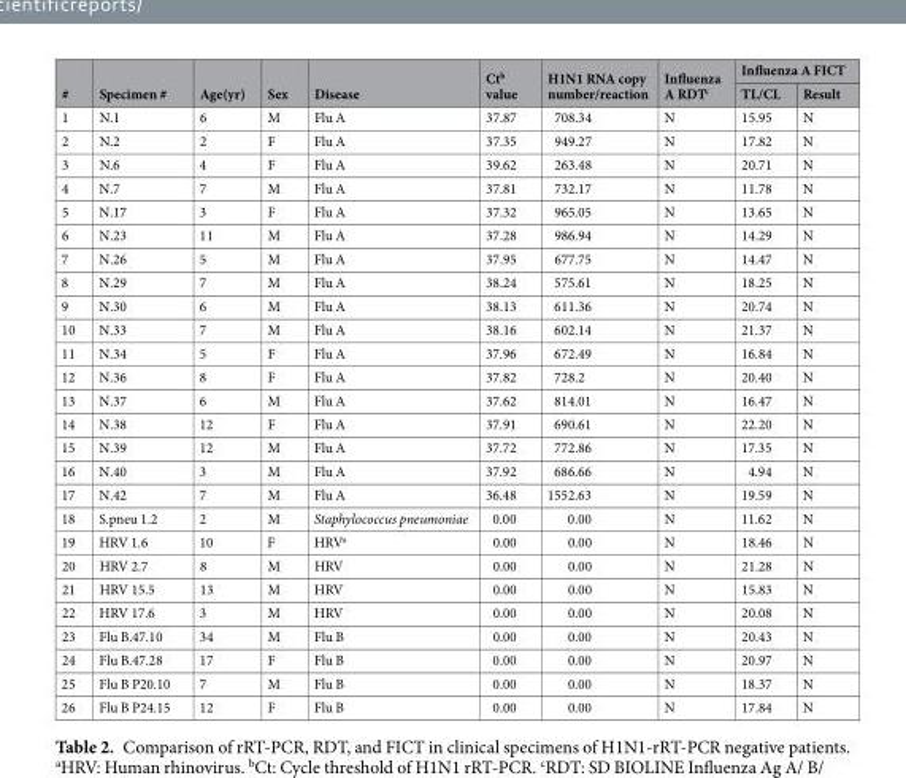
<table><thead><tr><td rowspan="2">#</td><td rowspan="2">Specimen #</td><td rowspan="2">Age(yr)</td><td rowspan="2">Sex</td><td rowspan="2">Disease</td><td rowspan="2">Ct<sup>b</sup> value</td><td rowspan="2">H1N1 RNA copy number/reaction</td><td rowspan="2">Influenza A RDT<sup>c</sup></td><td colspan="2">Influenza A FICT</td></tr><tr><td>TL/CL</td><td>Result</td></tr></thead><tbody><tr><td>1</td><td>N.1</td><td>6</td><td>M</td><td>Flu A</td><td>37.87</td><td>708.34</td><td>N</td><td>15.95</td><td>N</td></tr><tr><td>2</td><td>N.2</td><td>2</td><td>F</td><td>Flu A</td><td>37.35</td><td>949.27</td><td>N</td><td>17.82</td><td>N</td></tr><tr><td>3</td><td>N.6</td><td>4</td><td>F</td><td>Flu A</td><td>39.62</td><td>263.48</td><td>N</td><td>20.71</td><td>N</td></tr><tr><td>4</td><td>N.7</td><td>7</td><td>M</td><td>Flu A</td><td>37.81</td><td>732.17</td><td>N</td><td>11.78</td><td>N</td></tr><tr><td>5</td><td>N.17</td><td>3</td><td>F</td><td>Flu A</td><td>37.32</td><td>965.05</td><td>N</td><td>13.65</td><td>N</td></tr><tr><td>6</td><td>N.23</td><td>11</td><td>M</td><td>Flu A</td><td>37.28</td><td>986.94</td><td>N</td><td>14.29</td><td>N</td></tr><tr><td>7</td><td>N.26</td><td>5</td><td>M</td><td>Flu A</td><td>37.95</td><td>677.75</td><td>N</td><td>14.47</td><td>N</td></tr><tr><td>8</td><td>N.29</td><td>7</td><td>M</td><td>Flu A</td><td>38.24</td><td>575.61</td><td>N</td><td>18.25</td><td>N</td></tr><tr><td>9</td><td>N.30</td><td>6</td><td>M</td><td>Flu A</td><td>38.13</td><td>611.36</td><td>N</td><td>20.74</td><td>N</td></tr><tr><td>10</td><td>N.33</td><td>7</td><td>M</td><td>Flu A</td><td>38.16</td><td>602.14</td><td>N</td><td>21.37</td><td>N</td></tr><tr><td>11</td><td>N.34</td><td>5</td><td>F</td><td>Flu A</td><td>37.96</td><td>672.49</td><td>N</td><td>16.84</td><td>N</td></tr><tr><td>12</td><td>N.36</td><td>8</td><td>F</td><td>Flu A</td><td>37.82</td><td>728.2</td><td>N</td><td>20.40</td><td>N</td></tr><tr><td>13</td><td>N.37</td><td>6</td><td>M</td><td>Flu A</td><td>37.62</td><td>814.01</td><td>N</td><td>16.47</td><td>N</td></tr><tr><td>14</td><td>N.38</td><td>12</td><td>F</td><td>Flu A</td><td>37.91</td><td>690.61</td><td>N</td><td>22.20</td><td>N</td></tr><tr><td>15</td><td>N.39</td><td>12</td><td>M</td><td>Flu A</td><td>37.72</td><td>772.86</td><td>N</td><td>17.35</td><td>N</td></tr><tr><td>16</td><td>N.40</td><td>3</td><td>M</td><td>Flu A</td><td>37.92</td><td>686.66</td><td>N</td><td>4.94</td><td>N</td></tr><tr><td>17</td><td>N.42</td><td>7</td><td>M</td><td>Flu A</td><td>36.48</td><td>1552.63</td><td>N</td><td>19.59</td><td>N</td></tr><tr><td>18</td><td>S.pneu 1.2</td><td>2</td><td>M</td><td>Staphylococcus pneumoniae</td><td>0.00</td><td>0.00</td><td>N</td><td>11.62</td><td>N</td></tr><tr><td>19</td><td>HRV 1.6</td><td>10</td><td>F</td><td>HRV<sup>a</sup></td><td>0.00</td><td>0.00</td><td>N</td><td>18.46</td><td>N</td></tr><tr><td>20</td><td>HRV 2.7</td><td>8</td><td>M</td><td>HRV</td><td>0.00</td><td>0.00</td><td>N</td><td>21.28</td><td>N</td></tr><tr><td>21</td><td>HRV 15.5</td><td>13</td><td>M</td><td>HRV</td><td>0.00</td><td>0.00</td><td>N</td><td>15.83</td><td>N</td></tr><tr><td>22</td><td>HRV 17.6</td><td>3</td><td>M</td><td>HRV</td><td>0.00</td><td>0.00</td><td>N</td><td>20.08</td><td>N</td></tr><tr><td>23</td><td>Flu B.47.10</td><td>34</td><td>M</td><td>Flu B</td><td>0.00</td><td>0.00</td><td>N</td><td>20.43</td><td>N</td></tr><tr><td>24</td><td>Flu B.47.28</td><td>17</td><td>F</td><td>Flu B</td><td>0.00</td><td>0.00</td><td>N</td><td>20.97</td><td>N</td></tr><tr><td>25</td><td>Flu B P20.10</td><td>7</td><td>M</td><td>Flu B</td><td>0.00</td><td>0.00</td><td>N</td><td>18.37</td><td>N</td></tr><tr><td>26</td><td>Flu B P24.15</td><td>12</td><td>F</td><td>Flu B</td><td>0.00</td><td>0.00</td><td>N</td><td>17.84</td><td>N</td></tr></tbody></table>